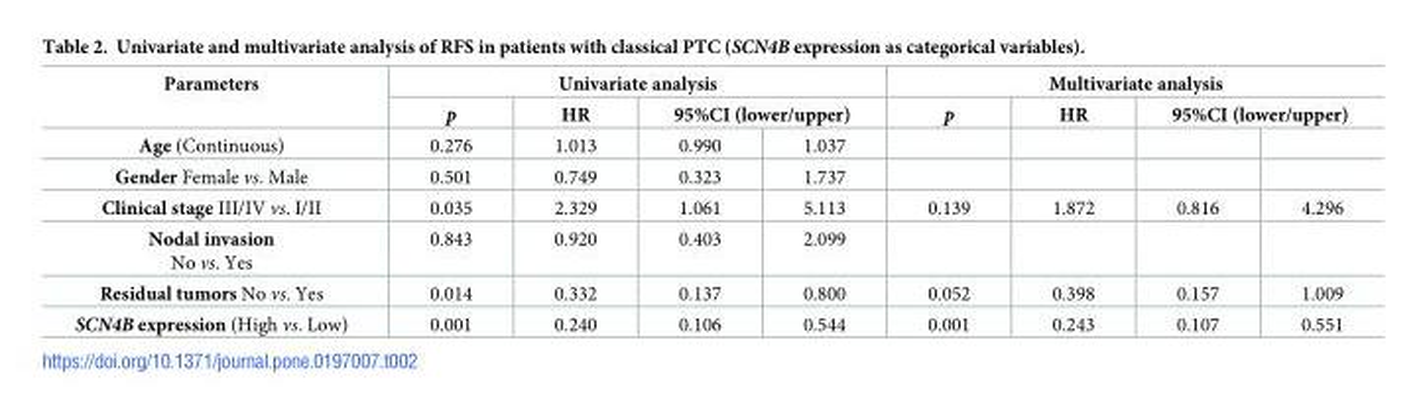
<table><thead><tr><td rowspan="3">Parameters Age (Continuous)</td><td colspan="4">Univariate analysis</td><td colspan="4">Multivariate analysis</td></tr><tr><td rowspan="2">p 0.276</td><td rowspan="2">HR 1.013</td><td colspan="2">95%CI (lower/upper)</td><td rowspan="2">p</td><td rowspan="2">HR</td><td colspan="2">95%CI (lower/upper)</td></tr><tr><td>0.990</td><td>1.037</td><td></td><td></td></tr></thead><tbody><tr><td>Gender Female vs. Male</td><td>0.501</td><td>0.749</td><td>0.323</td><td>1.737</td><td></td><td></td><td></td><td></td></tr><tr><td>Clinical stage III/IV vs. I/II</td><td>0.035</td><td>2.329</td><td>1.061</td><td>5.113</td><td>0.139</td><td>1.872</td><td>0.816</td><td>4.296</td></tr><tr><td>Nodal invasion No vs. Yes</td><td>0.843</td><td>0.920</td><td>0.403</td><td>2.099</td><td></td><td></td><td></td><td></td></tr><tr><td>Residual tumors No vs. Yes</td><td>0.014</td><td>0.332</td><td>0.137</td><td>0.800</td><td>0.052</td><td>0.398</td><td>0.157</td><td>1.009</td></tr><tr><td>SCN4B expression (High vs. Low)</td><td>0.001</td><td>0.240</td><td>0.106</td><td>0.544</td><td>0.001</td><td>0.243</td><td>0.107</td><td>0.551</td></tr></tbody></table>